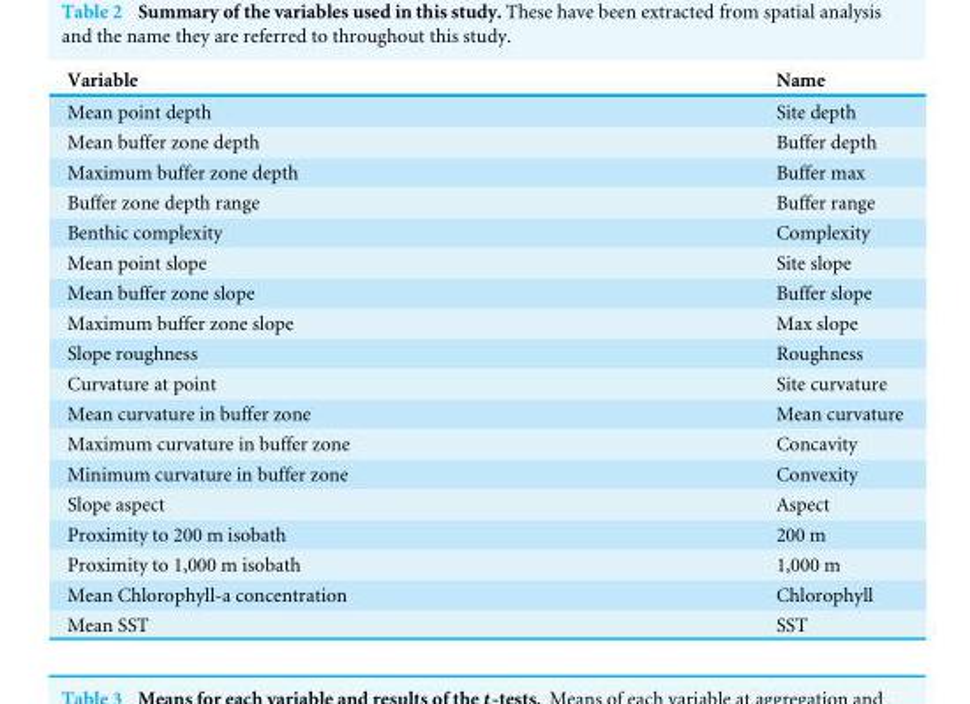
<table><thead><tr><td>Variable</td><td>Name</td></tr></thead><tbody><tr><td>Mean point depth</td><td>Site depth</td></tr><tr><td>Mean buffer zone depth</td><td>Buffer depth</td></tr><tr><td>Maximum buffer zone depth</td><td>Buffer max</td></tr><tr><td>Buffer zone depth range</td><td>Buffer range</td></tr><tr><td>Benthic complexity</td><td>Complexity</td></tr><tr><td>Mean point slope</td><td>Site slope</td></tr><tr><td>Mean buffer zone slope</td><td>Buffer slope</td></tr><tr><td>Maximum buffer zone slope</td><td>Max slope</td></tr><tr><td>Slope roughness</td><td>Roughness</td></tr><tr><td>Curvature at point</td><td>Site curvature</td></tr><tr><td>Mean curvature in buffer zone</td><td>Mean curvature</td></tr><tr><td>Maximum curvature in buffer zone</td><td>Concavity</td></tr><tr><td>Minimum curvature in buffer zone</td><td>Convexity</td></tr><tr><td>Slope aspect</td><td>Aspect</td></tr><tr><td>Proximity to 200 m isobath</td><td>200 m</td></tr><tr><td>Proximity to 1,000 m isobath</td><td>1,000 m</td></tr><tr><td>Mean Chlorophyll-a concentration</td><td>Chlorophyll</td></tr><tr><td>Mean SST</td><td>SST</td></tr></tbody></table>